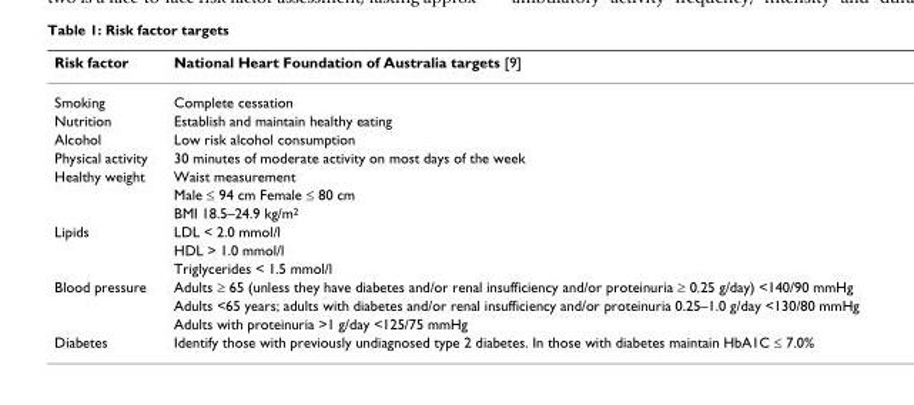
<table><thead><tr><td>Risk factor</td><td>National Heart Foundation of Australia targets [9]</td></tr></thead><tbody><tr><td>Smoking</td><td>Complete cessation</td></tr><tr><td>Nutrition</td><td>Establish and maintain healthy eating</td></tr><tr><td>Alcohol</td><td>Low risk alcohol consumption</td></tr><tr><td>Physical activity</td><td>30 minutes of moderate activity on most days of the week</td></tr><tr><td rowspan="3">Healthy weight</td><td>Waist measurement</td></tr><tr><td>Male ≤ 94 cm Female ≤ 80 cm</td></tr><tr><td>BMI 18.5–24.9 kg/m<sup>2</sup></td></tr><tr><td rowspan="3">Lipids</td><td>LDL &lt; 2.0 mmol/l</td></tr><tr><td>HDL &gt; 1.0 mmol/l</td></tr><tr><td>Triglycerides &lt; 1.5 mmol/l</td></tr><tr><td rowspan="3">Blood pressure</td><td>Adults ≥ 65 (unless they have diabetes and/or renal insufficiency and/or proteinuria ≥ 0.25 g/day) &lt;140/90 mmHg</td></tr><tr><td>Adults &lt;65 years; adults with diabetes and/or renal insufficiency and/or proteinuria 0.25–1.0 g/day &lt;130/80 mmHg</td></tr><tr><td>Adults with proteinuria &gt;1 g/day &lt;125/75 mmHg</td></tr><tr><td>Diabetes</td><td>Identify those with previously undiagnosed type 2 diabetes. In those with diabetes maintain HbA1C ≤ 7.0%</td></tr></tbody></table>